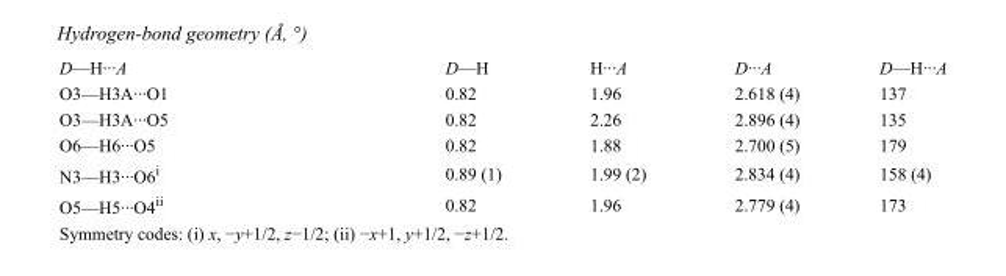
<table><tbody><tr><td>D—H···A</td><td>D—H</td><td>H···A</td><td>D···A</td><td>D—H···A</td></tr><tr><td>O3—H3A···O1</td><td>0.82</td><td>1.96</td><td>2.618 (4)</td><td>137</td></tr><tr><td>O3—H3A···O5</td><td>0.82</td><td>2.26</td><td>2.896 (4)</td><td>135</td></tr><tr><td>O6—H6···O5</td><td>0.82</td><td>1.88</td><td>2.700 (5)</td><td>179</td></tr><tr><td>N3—H3···O6<sup>i</sup></td><td>0.89 (1)</td><td>1.99 (2)</td><td>2.834 (4)</td><td>158 (4)</td></tr><tr><td>O5—H5···O4<sup>ii</sup></td><td>0.82</td><td>1.96</td><td>2.779 (4)</td><td>173</td></tr></tbody></table>